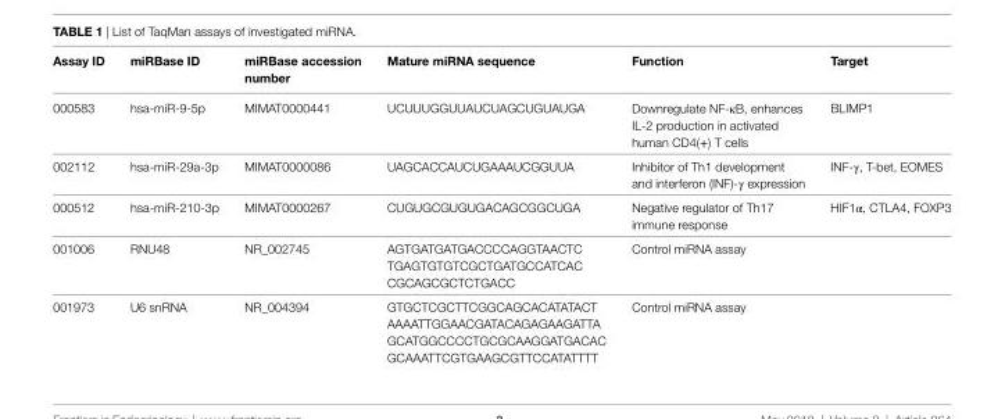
<table><thead><tr><td>assay iD</td><td>mirBase iD</td><td>mirBase accession number</td><td>Mature mirna sequence</td><td>Function</td><td>Target</td></tr></thead><tbody><tr><td>000583</td><td>hsa-miR-9-5p</td><td>MIMAT0000441</td><td>UCUUUGGUUAUCUAGCUGUAUGA</td><td>Downregulate NF-κB, enhances IL-2 production in activated human CD4(+) T cells</td><td>BLIMP1</td></tr><tr><td>002112</td><td>hsa-miR-29a-3p</td><td>MIMAT0000086</td><td>UAGCACCAUCUGAAAUCGGUUA</td><td>Inhibitor of Th1 development and interferon (INF)-γ expression</td><td>INF-γ, T-bet, EOMES</td></tr><tr><td>000512</td><td>hsa-miR-210-3p</td><td>MIMAT0000267</td><td>CUGUGCGUGUGACAGCGGCUGA</td><td>Negative regulator of Th17 immune response</td><td>HIF1α, CTLA4, FOXP3</td></tr><tr><td>001006</td><td>RNU48</td><td>NR_002745</td><td>AGTGATGATGACCCCAGGTAACTC TGAGTGTGTCGCTGATGCCATCAC CGCAGCGCTCTGACC</td><td>Control miRNA assay</td><td></td></tr><tr><td>001973</td><td>U6 snRNA</td><td>NR_004394</td><td>GTGCTCGCTTCGGCAGCACATATACT AAAATTGGAACGATACAGAGAAGATTA GCATGGCCCCTGCGCAAGGATGACAC GCAAATTCGTGAAGCGTTCCATATTTT</td><td>Control miRNA assay</td><td></td></tr></tbody></table>